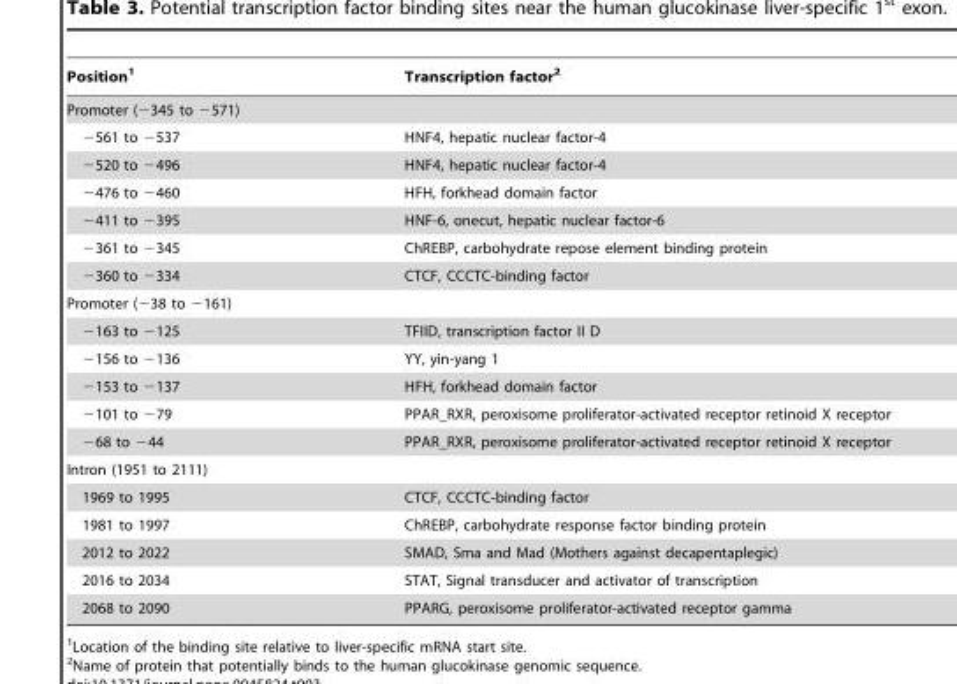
<table><thead><tr><td>Position<sup>1</sup></td><td>Transcription factor<sup>2</sup></td></tr></thead><tbody><tr><td colspan="2">Promoter (−345 to −571)</td></tr><tr><td>−561 to −537</td><td>HNF4, hepatic nuclear factor-4</td></tr><tr><td>−520 to −496</td><td>HNF4, hepatic nuclear factor-4</td></tr><tr><td>−476 to −460</td><td>HFH, forkhead domain factor</td></tr><tr><td>−411 to −395</td><td>HNF-6, onecut, hepatic nuclear factor-6</td></tr><tr><td>−361 to −345</td><td>ChREBP, carbohydrate repose element binding protein</td></tr><tr><td>−360 to −334</td><td>CTCF, CCCTC-binding factor</td></tr><tr><td colspan="2">Promoter (−38 to −161)</td></tr><tr><td>−163 to −125</td><td>TFIID, transcription factor II D</td></tr><tr><td>−156 to −136</td><td>YY, yin-yang 1</td></tr><tr><td>−153 to −137</td><td>HFH, forkhead domain factor</td></tr><tr><td>−101 to −79</td><td>PPAR_RXR, peroxisome proliferator-activated receptor retinoid X receptor</td></tr><tr><td>−68 to −44</td><td>PPAR_RXR, peroxisome proliferator-activated receptor retinoid X receptor</td></tr><tr><td colspan="2">Intron (1951 to 2111)</td></tr><tr><td>1969 to 1995</td><td>CTCF, CCCTC-binding factor</td></tr><tr><td>1981 to 1997</td><td>ChREBP, carbohydrate response factor binding protein</td></tr><tr><td>2012 to 2022</td><td>SMAD, Sma and Mad (Mothers against decapentaplegic)</td></tr><tr><td>2016 to 2034</td><td>STAT, Signal transducer and activator of transcription</td></tr><tr><td>2068 to 2090</td><td>PPARG, peroxisome proliferator-activated receptor gamma</td></tr></tbody></table>